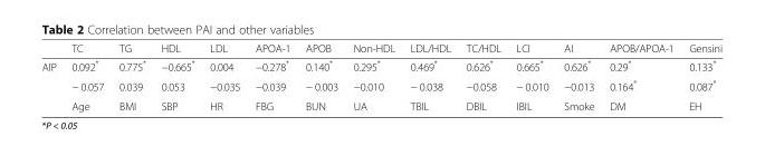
<table><thead><tr><td></td><td>TC</td><td>TG</td><td>HDL</td><td>LDL</td><td>APOA-1</td><td>APOB</td><td>Non-HDL</td><td>LDL/HDL</td><td>TC/HDL</td><td>LCI</td><td>AI</td><td>APOB/APOA-1</td><td>Gensini</td></tr></thead><tbody><tr><td rowspan="3">AIP</td><td>0.092*</td><td>0.775*</td><td>−0.665*</td><td>0.004</td><td>−0.278*</td><td>0.140*</td><td>0.295*</td><td>0.469*</td><td>0.626*</td><td>0.665*</td><td>0.626*</td><td>0.29*</td><td>0.133*</td></tr><tr><td>− 0.057</td><td>0.039</td><td>0.053</td><td>−0.035</td><td>−0.039</td><td>− 0.003</td><td>−0.010</td><td>− 0.038</td><td>−0.058</td><td>− 0.010</td><td>−0.013</td><td>0.164*</td><td>0.087*</td></tr><tr><td>Age</td><td>BMI</td><td>SBP</td><td>HR</td><td>FBG</td><td>BUN</td><td>UA</td><td>TBIL</td><td>DBIL</td><td>IBIL</td><td>Smoke</td><td>DM</td><td>EH</td></tr></tbody></table>